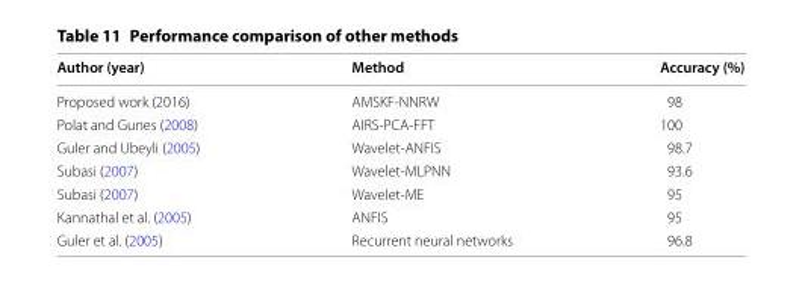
<table><thead><tr><td>Author (year)</td><td>Method</td><td>Accuracy (%)</td></tr></thead><tbody><tr><td>Proposed work (2016)</td><td>AMSKF-NNRW</td><td>98</td></tr><tr><td>Polat and Gunes (2008)</td><td>AIRS-PCA-FFT</td><td>100</td></tr><tr><td>Guler and Ubeyli (2005)</td><td>Wavelet-ANFIS</td><td>98.7</td></tr><tr><td>Subasi (2007)</td><td>Wavelet-MLPNN</td><td>93.6</td></tr><tr><td>Subasi (2007)</td><td>Wavelet-ME</td><td>95</td></tr><tr><td>Kannathal et al. (2005)</td><td>ANFIS</td><td>95</td></tr><tr><td>Guler et al. (2005)</td><td>Recurrent neural networks</td><td>96.8</td></tr></tbody></table>